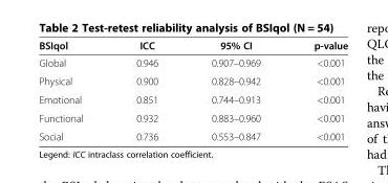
<table><thead><tr><td>BSIqol</td><td>ICC</td><td>95% CI</td><td>p-value</td></tr></thead><tbody><tr><td>Global</td><td>0.946</td><td>0.907–0.969</td><td>&lt;0.001</td></tr><tr><td>Physical</td><td>0.900</td><td>0.828–0.942</td><td>&lt;0.001</td></tr><tr><td>Emotional</td><td>0.851</td><td>0.744–0.913</td><td>&lt;0.001</td></tr><tr><td>Functional</td><td>0.932</td><td>0.883–0.960</td><td>&lt;0.001</td></tr><tr><td>Social</td><td>0.736</td><td>0.553–0.847</td><td>&lt;0.001</td></tr></tbody></table>